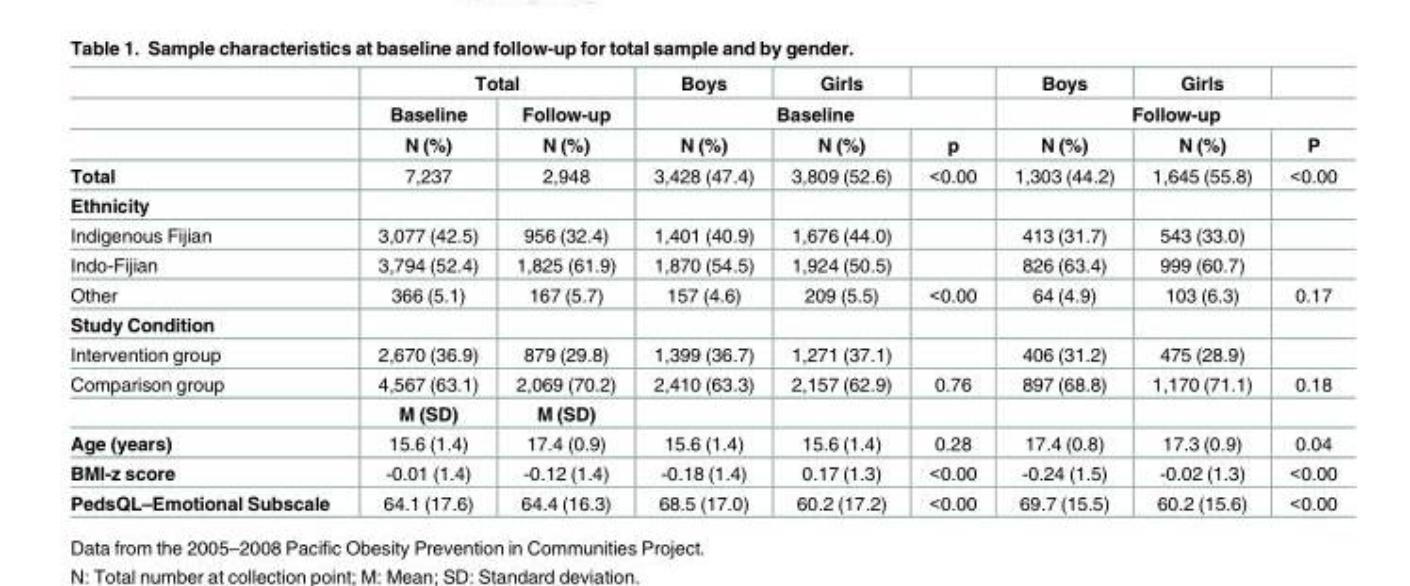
<table><thead><tr><td rowspan="3"></td><td colspan="2">Total</td><td>Boys</td><td>Girls</td><td></td><td>Boys</td><td>Girls</td><td></td></tr><tr><td rowspan="2">Baseline N (%)</td><td rowspan="2">Follow-up N (%)</td><td colspan="3">Baseline</td><td colspan="3">Follow-up</td></tr><tr><td>N (%)</td><td>N (%)</td><td>p</td><td>N (%)</td><td>N (%)</td><td>P</td></tr></thead><tbody><tr><td>Total</td><td>7,237</td><td>2,948</td><td>3,428 (47.4)</td><td>3,809 (52.6)</td><td>&lt;0.00</td><td>1,303 (44.2)</td><td>1,645 (55.8)</td><td>&lt;0.00</td></tr><tr><td colspan="9">Ethnicity</td></tr><tr><td>Indigenous Fijian</td><td>3,077 (42.5)</td><td>956 (32.4)</td><td>1,401 (40.9)</td><td>1,676 (44.0)</td><td></td><td>413 (31.7)</td><td>543 (33.0)</td><td></td></tr><tr><td>Indo-Fijian</td><td>3,794 (52.4)</td><td>1,825 (61.9)</td><td>1,870 (54.5)</td><td>1,924 (50.5)</td><td></td><td>826 (63.4)</td><td>999 (60.7)</td><td></td></tr><tr><td>Other</td><td>366 (5.1)</td><td>167 (5.7)</td><td>157 (4.6)</td><td>209 (5.5)</td><td>&lt;0.00</td><td>64 (4.9)</td><td>103 (6.3)</td><td>0.17</td></tr><tr><td colspan="9">Study Condition</td></tr><tr><td>Intervention group</td><td>2,670 (36.9)</td><td>879 (29.8)</td><td>1,399 (36.7)</td><td>1,271 (37.1)</td><td></td><td>406 (31.2)</td><td>475 (28.9)</td><td></td></tr><tr><td rowspan="2">Comparison group</td><td>4,567 (63.1)</td><td>2,069 (70.2)</td><td>2,410 (63.3)</td><td>2,157 (62.9)</td><td>0.76</td><td>897 (68.8)</td><td>1,170 (71.1)</td><td>0.18</td></tr><tr><td>M (SD)</td><td>M (SD)</td><td></td><td></td><td></td><td></td><td></td><td></td></tr><tr><td>Age (years)</td><td>15.6 (1.4)</td><td>17.4 (0.9)</td><td>15.6 (1.4)</td><td>15.6 (1.4)</td><td>0.28</td><td>17.4 (0.8)</td><td>17.3 (0.9)</td><td>0.04</td></tr><tr><td>BMI-z score</td><td>-0.01 (1.4)</td><td>-0.12 (1.4)</td><td>-0.18 (1.4)</td><td>0.17 (1.3)</td><td>&lt;0.00</td><td>-0.24 (1.5)</td><td>-0.02 (1.3)</td><td>&lt;0.00</td></tr><tr><td>PedsQL–Emotional Subscale</td><td>64.1 (17.6)</td><td>64.4 (16.3)</td><td>68.5 (17.0)</td><td>60.2 (17.2)</td><td>&lt;0.00</td><td>69.7 (15.5)</td><td>60.2 (15.6)</td><td>&lt;0.00</td></tr></tbody></table>